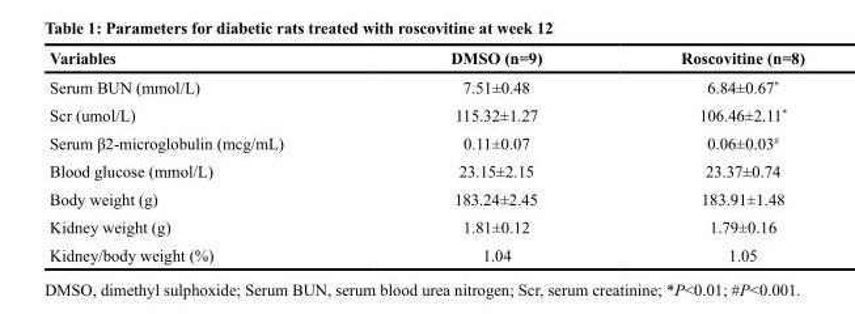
<table><thead><tr><td>Variables</td><td>DMSO (n=9)</td><td>Roscovitine (n=8)</td></tr></thead><tbody><tr><td>Serum BUN (mmol/L)</td><td>7.51±0.48</td><td>6.84±0.67*</td></tr><tr><td>Scr (umol/L)</td><td>115.32±1.27</td><td>106.46±2.11*</td></tr><tr><td>Serum β2-microglobulin (mcg/mL)</td><td>0.11±0.07</td><td>0.06±0.03#</td></tr><tr><td>Blood glucose (mmol/L)</td><td>23.15±2.15</td><td>23.37±0.74</td></tr><tr><td>Body weight (g)</td><td>183.24±2.45</td><td>183.91±1.48</td></tr><tr><td>Kidney weight (g)</td><td>1.81±0.12</td><td>1.79±0.16</td></tr><tr><td>Kidney/body weight (%)</td><td>1.04</td><td>1.05</td></tr></tbody></table>